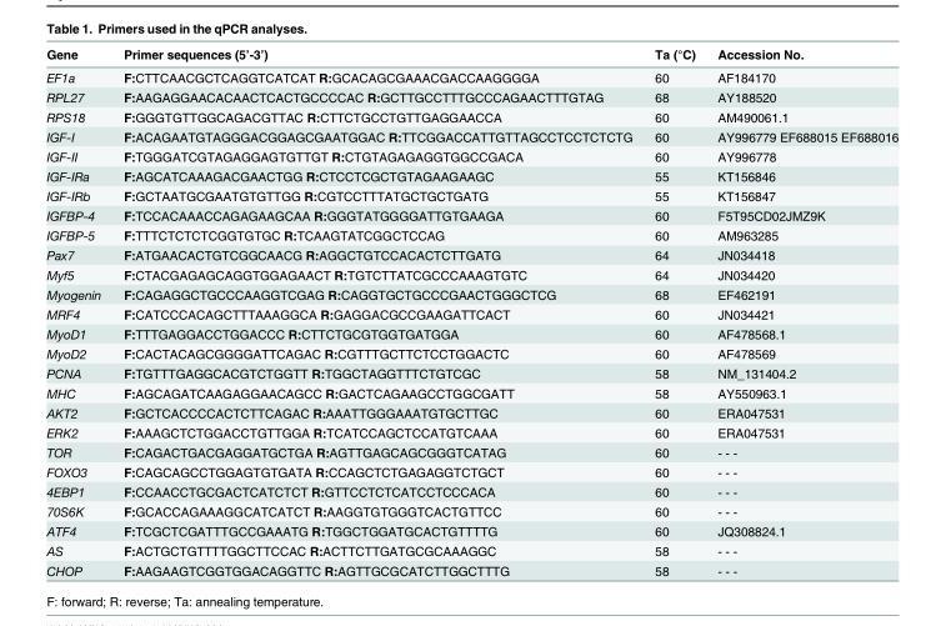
<table><thead><tr><td>Gene</td><td>Primer sequences (5’-3’)</td><td>Ta (°C)</td><td>Accession No.</td></tr></thead><tbody><tr><td>EF1a</td><td>F:CTTCAACGCTCAGGTCATCAT R:GCACAGCGAAACGACCAAGGGGA</td><td>60</td><td>AF184170</td></tr><tr><td>RPL27</td><td>F:AAGAGGAACACAACTCACTGCCCCAC R:GCTTGCCTTTGCCCAGAACTTTGTAG</td><td>68</td><td>AY188520</td></tr><tr><td>RPS18</td><td>F:GGGTGTTGGCAGACGTTAC R:CTTCTGCCTGTTGAGGAACCA</td><td>60</td><td>AM490061.1</td></tr><tr><td>IGF-I</td><td>F:ACAGAATGTAGGGACGGAGCGAATGGAC R:TTCGGACCATTGTTAGCCTCCTCTCTG</td><td>60</td><td>AY996779 EF688015 EF688016</td></tr><tr><td>IGF-II</td><td>F:TGGGATCGTAGAGGAGTGTTGT R:CTGTAGAGAGGTGGCCGACA</td><td>60</td><td>AY996778</td></tr><tr><td>IGF-IRa</td><td>F:AGCATCAAAGACGAACTGG R:CTCCTCGCTGTAGAAGAAGC</td><td>55</td><td>KT156846</td></tr><tr><td>IGF-IRb</td><td>F:GCTAATGCGAATGTGTTGG R:CGTCCTTTATGCTGCTGATG</td><td>55</td><td>KT156847</td></tr><tr><td>IGFBP-4</td><td>F:TCCACAAACCAGAGAAGCAA R:GGGTATGGGGATTGTGAAGA</td><td>60</td><td>F5T95CD02JMZ9K</td></tr><tr><td>IGFBP-5</td><td>F:TTTCTCTCTCGGTGTGC R:TCAAGTATCGGCTCCAG</td><td>60</td><td>AM963285</td></tr><tr><td>Pax7</td><td>F:ATGAACACTGTCGGCAACG R:AGGCTGTCCACACTCTTGATG</td><td>64</td><td>JN034418</td></tr><tr><td>Myf5</td><td>F:CTACGAGAGCAGGTGGAGAACT R:TGTCTTATCGCCCAAAGTGTC</td><td>64</td><td>JN034420</td></tr><tr><td>Myogenin</td><td>F:CAGAGGCTGCCCAAGGTCGAG R:CAGGTGCTGCCCGAACTGGGCTCG</td><td>68</td><td>EF462191</td></tr><tr><td>MRF4</td><td>F:CATCCCACAGCTTTAAAGGCA R:GAGGACGCCGAAGATTCACT</td><td>60</td><td>JN034421</td></tr><tr><td>MyoD1</td><td>F:TTTGAGGACCTGGACCC R:CTTCTGCGTGGTGATGGA</td><td>60</td><td>AF478568.1</td></tr><tr><td>MyoD2</td><td>F:CACTACAGCGGGGATTCAGAC R:CGTTTGCTTCTCCTGGACTC</td><td>60</td><td>AF478569</td></tr><tr><td>PCNA</td><td>F:TGTTTGAGGCACGTCTGGTT R:TGGCTAGGTTTCTGTCGC</td><td>58</td><td>NM_131404.2</td></tr><tr><td>MHC</td><td>F:AGCAGATCAAGAGGAACAGCC R:GACTCAGAAGCCTGGCGATT</td><td>58</td><td>AY550963.1</td></tr><tr><td>AKT2</td><td>F:GCTCACCCCACTCTTCAGAC R:AAATTGGGAAATGTGCTTGC</td><td>60</td><td>ERA047531</td></tr><tr><td>ERK2</td><td>F:AAAGCTCTGGACCTGTTGGA R:TCATCCAGCTCCATGTCAAA</td><td>60</td><td>ERA047531</td></tr><tr><td>TOR</td><td>F:CAGACTGACGAGGATGCTGA R:AGTTGAGCAGCGGGTCATAG</td><td>60</td><td>- - -</td></tr><tr><td>FOXO3</td><td>F:CAGCAGCCTGGAGTGTGATA R:CCAGCTCTGAGAGGTCTGCT</td><td>60</td><td>- - -</td></tr><tr><td>4EBP1</td><td>F:CCAACCTGCGACTCATCTCT R:GTTCCTCTCATCCTCCCACA</td><td>60</td><td>- - -</td></tr><tr><td>70S6K</td><td>F:GCACCAGAAAGGCATCATCT R:AAGGTGTGGGTCACTGTTCC</td><td>60</td><td>- - -</td></tr><tr><td>ATF4</td><td>F:TCGCTCGATTTGCCGAAATG R:TGGCTGGATGCACTGTTTTG</td><td>60</td><td>JQ308824.1</td></tr><tr><td>AS</td><td>F:ACTGCTGTTTTGGCTTCCAC R:ACTTCTTGATGCGCAAAGGC</td><td>58</td><td>- - -</td></tr><tr><td>CHOP</td><td>F:AAGAAGTCGGTGGACAGGTTC R:AGTTGCGCATCTTGGCTTTG</td><td>58</td><td>- - -</td></tr></tbody></table>